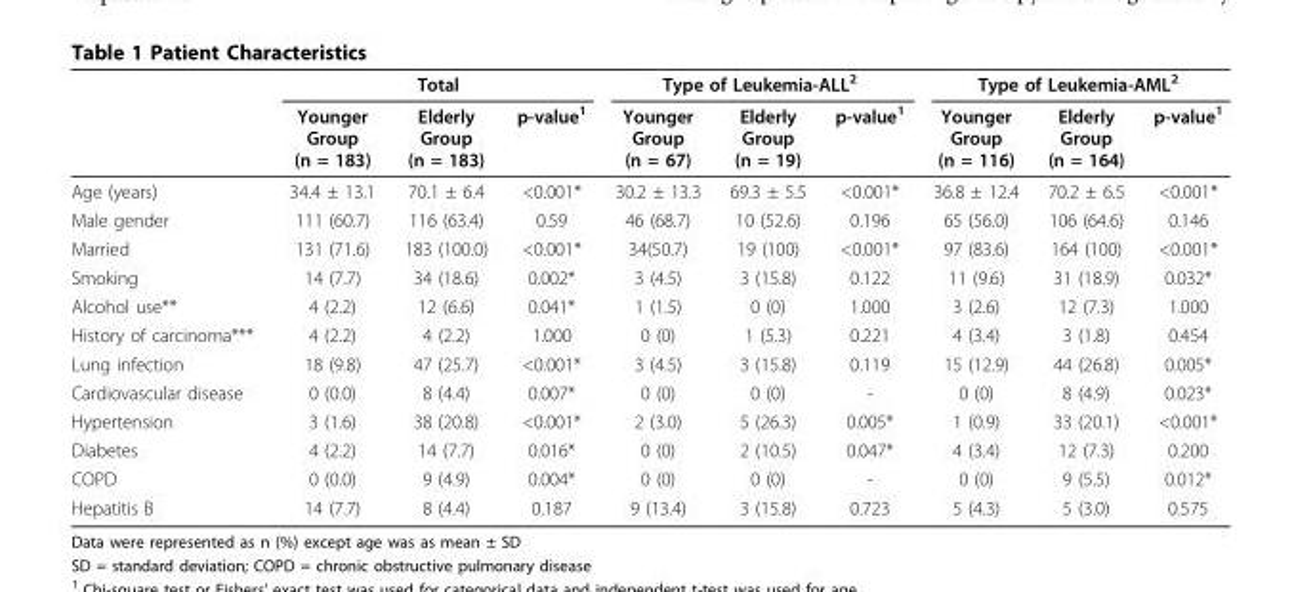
<table><thead><tr><td rowspan="2"></td><td colspan="3">Total</td><td colspan="3">Type of Leukemia-ALL<sup>2</sup></td><td colspan="3">Type of Leukemia-AML<sup>2</sup></td></tr><tr><td>Younger Group (n = 183)</td><td>Elderly Group (n = 183)</td><td>p-value<sup>1</sup></td><td>Younger Group (n = 67)</td><td>Elderly Group (n = 19)</td><td>p-value<sup>1</sup></td><td>Younger Group (n = 116)</td><td>Elderly Group (n = 164)</td><td>p-value<sup>1</sup></td></tr></thead><tbody><tr><td>Age (years)</td><td>34.4 ± 13.1</td><td>70.1 ± 6.4</td><td>&lt;0.001*</td><td>30.2 ± 13.3</td><td>69.3 ± 5.5</td><td>&lt;0.001*</td><td>36.8 ± 12.4</td><td>70.2 ± 6.5</td><td>&lt;0.001*</td></tr><tr><td>Male gender</td><td>111 (60.7)</td><td>116 (63.4)</td><td>0.59</td><td>46 (68.7)</td><td>10 (52.6)</td><td>0.196</td><td>65 (56.0)</td><td>106 (64.6)</td><td>0.146</td></tr><tr><td>Married</td><td>131 (71.6)</td><td>183 (100.0)</td><td>&lt;0.001*</td><td>34(50.7)</td><td>19 (100)</td><td>&lt;0.001*</td><td>97 (83.6)</td><td>164 (100)</td><td>&lt;0.001*</td></tr><tr><td>Smoking</td><td>14 (7.7)</td><td>34 (18.6)</td><td>0.002*</td><td>3 (4.5)</td><td>3 (15.8)</td><td>0.122</td><td>11 (9.6)</td><td>31 (18.9)</td><td>0.032*</td></tr><tr><td>Alcohol use**</td><td>4 (2.2)</td><td>12 (6.6)</td><td>0.041*</td><td>1 (1.5)</td><td>0 (0)</td><td>1.000</td><td>3 (2.6)</td><td>12 (7.3)</td><td>1.000</td></tr><tr><td>History of carcinoma***</td><td>4 (2.2)</td><td>4 (2.2)</td><td>1.000</td><td>0 (0)</td><td>1 (5.3)</td><td>0.221</td><td>4 (3.4)</td><td>3 (1.8)</td><td>0.454</td></tr><tr><td>Lung infection</td><td>18 (9.8)</td><td>47 (25.7)</td><td>&lt;0.001*</td><td>3 (4.5)</td><td>3 (15.8)</td><td>0.119</td><td>15 (12.9)</td><td>44 (26.8)</td><td>0.005*</td></tr><tr><td>Cardiovascular disease</td><td>0 (0.0)</td><td>8 (4.4)</td><td>0.007*</td><td>0 (0)</td><td>0 (0)</td><td>-</td><td>0 (0)</td><td>8 (4.9)</td><td>0.023*</td></tr><tr><td>Hypertension</td><td>3 (1.6)</td><td>38 (20.8)</td><td>&lt;0.001*</td><td>2 (3.0)</td><td>5 (26.3)</td><td>0.005*</td><td>1 (0.9)</td><td>33 (20.1)</td><td>&lt;0.001*</td></tr><tr><td>Diabetes</td><td>4 (2.2)</td><td>14 (7.7)</td><td>0.016*</td><td>0 (0)</td><td>2 (10.5)</td><td>0.047*</td><td>4 (3.4)</td><td>12 (7.3)</td><td>0.200</td></tr><tr><td>COPD</td><td>0 (0.0)</td><td>9 (4.9)</td><td>0.004*</td><td>0 (0)</td><td>0 (0)</td><td>-</td><td>0 (0)</td><td>9 (5.5)</td><td>0.012*</td></tr><tr><td>Hepatitis B</td><td>14 (7.7)</td><td>8 (4.4)</td><td>0.187</td><td>9 (13.4)</td><td>3 (15.8)</td><td>0.723</td><td>5 (4.3)</td><td>5 (3.0)</td><td>0.575</td></tr></tbody></table>